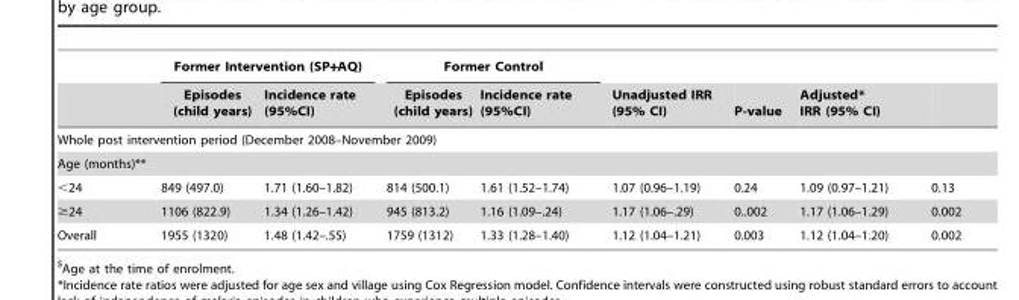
<table><thead><tr><td rowspan="2"></td><td colspan="2">Former Intervention (SP+AQ)</td><td colspan="2">Former Control</td><td rowspan="2">Unadjusted IRR (95% CI)</td><td rowspan="2">P-value</td><td rowspan="2">Adjusted* IRR (95% CI)</td><td rowspan="2"></td></tr><tr><td>Episodes (child years)</td><td>Incidence rate (95%CI)</td><td>Episodes (child years)</td><td>Incidence rate (95%CI)</td></tr></thead><tbody><tr><td colspan="9">Whole post intervention period (December 2008–November 2009)</td></tr><tr><td colspan="9">Age (months)**</td></tr><tr><td>&lt;24</td><td>849 (497.0)</td><td>1.71 (1.60–1.82)</td><td>814 (500.1)</td><td>1.61 (1.52–1.74)</td><td>1.07 (0.96–1.19)</td><td>0.24</td><td>1.09 (0.97–1.21)</td><td>0.13</td></tr><tr><td>≥24</td><td>1106 (822.9)</td><td>1.34 (1.26–1.42)</td><td>945 (813.2)</td><td>1.16 (1.09–.24)</td><td>1.17 (1.06–.29)</td><td>0..002</td><td>1.17 (1.06–1.29)</td><td>0.002</td></tr><tr><td>Overall</td><td>1955 (1320)</td><td>1.48 (1.42–.55)</td><td>1759 (1312)</td><td>1.33 (1.28–1.40)</td><td>1.12 (1.04–1.21)</td><td>0.003</td><td>1.12 (1.04–1.20)</td><td>0.002</td></tr></tbody></table>